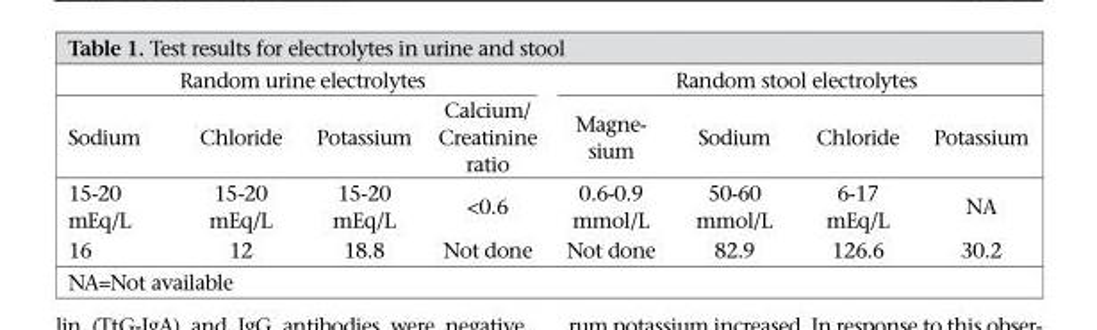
<table><thead><tr><td colspan="4">Random urine electrolytes</td><td colspan="4">Random stool electrolytes</td></tr><tr><td>Sodium</td><td>Chloride</td><td>Potassium</td><td>Calcium/ Creatinine ratio</td><td>Magne- sium</td><td>Sodium</td><td>Chloride</td><td>Potassium</td></tr></thead><tbody><tr><td>15-20 mEq/L</td><td>15-20 mEq/L</td><td>15-20 mEq/L</td><td>&lt;0.6</td><td>0.6-0.9 mmol/L</td><td>50-60 mmol/L</td><td>6-17 mEq/L</td><td>NA</td></tr><tr><td>16</td><td>12</td><td>18.8</td><td>Not done</td><td>Not done</td><td>82.9</td><td>126.6</td><td>30.2</td></tr></tbody></table>